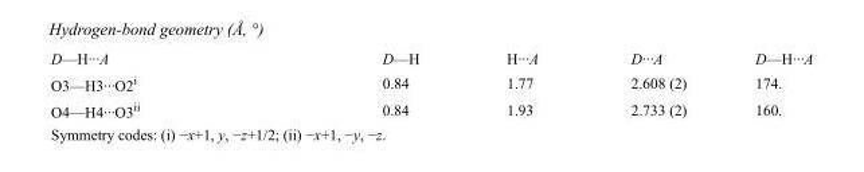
<table><tbody><tr><td>D—H···A</td><td>D—H</td><td>H···A</td><td>D···A</td><td>D—H···A</td></tr><tr><td>O3—H3···O2<sup>i</sup></td><td>0.84</td><td>1.77</td><td>2.608 (2)</td><td>174.</td></tr><tr><td>O4—H4···O3<sup>ii</sup></td><td>0.84</td><td>1.93</td><td>2.733 (2)</td><td>160.</td></tr></tbody></table>